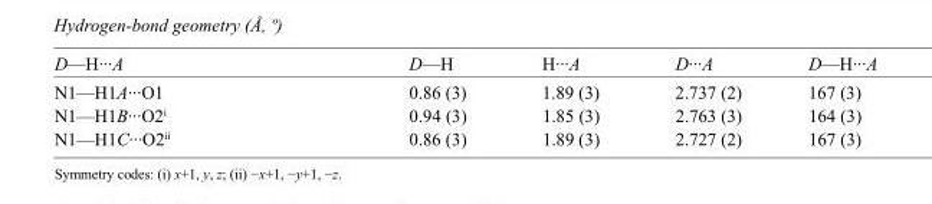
<table><tbody><tr><td>D—H···A</td><td>D—H</td><td>H···A</td><td>D···A</td><td>D—H···A</td></tr><tr><td>N1—H1A···O1</td><td>0.86 (3)</td><td>1.89 (3)</td><td>2.737 (2)</td><td>167 (3)</td></tr><tr><td>N1—H1B···O2<sup>i</sup></td><td>0.94 (3)</td><td>1.85 (3)</td><td>2.763 (3)</td><td>164 (3)</td></tr><tr><td>N1—H1C···O2<sup>ii</sup></td><td>0.86 (3)</td><td>1.89 (3)</td><td>2.727 (2)</td><td>167 (3)</td></tr></tbody></table>